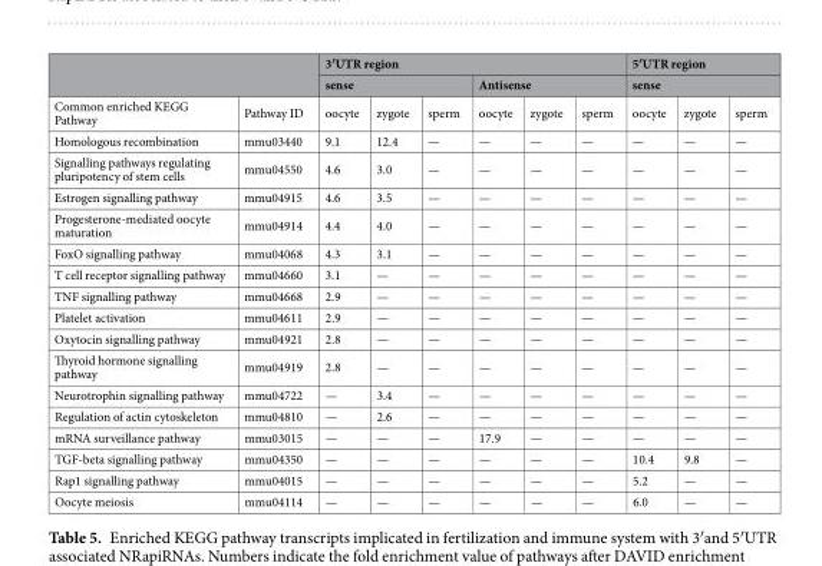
<table><thead><tr><td rowspan="3">Common enriched KEGG Pathway</td><td rowspan="3">Pathway ID</td><td colspan="6">3′UTR region</td><td rowspan="2" colspan="3">5′UTR region sense</td></tr><tr><td colspan="3">sense</td><td colspan="3">Antisense</td></tr><tr><td>oocyte</td><td>zygote</td><td>sperm</td><td>oocyte</td><td>zygote</td><td>sperm</td><td>oocyte</td><td>zygote</td><td>sperm</td></tr></thead><tbody><tr><td>Homologous recombination</td><td>mmu03440</td><td>9.1</td><td>12.4</td><td>—</td><td>—</td><td>—</td><td>—</td><td>—</td><td>—</td><td>—</td></tr><tr><td>Signalling pathways regulating pluripotency of stem cells</td><td>mmu04550</td><td>4.6</td><td>3.0</td><td>—</td><td>—</td><td>—</td><td>—</td><td>—</td><td>—</td><td>—</td></tr><tr><td>Estrogen signalling pathway</td><td>mmu04915</td><td>4.6</td><td>3.5</td><td>—</td><td>—</td><td>—</td><td>—</td><td>—</td><td>—</td><td>—</td></tr><tr><td>Progesterone-mediated oocyte maturation</td><td>mmu04914</td><td>4.4</td><td>4.0</td><td>—</td><td>—</td><td>—</td><td>—</td><td>—</td><td>—</td><td>—</td></tr><tr><td>FoxO signalling pathway</td><td>mmu04068</td><td>4.3</td><td>3.1</td><td>—</td><td>—</td><td>—</td><td>—</td><td>—</td><td>—</td><td>—</td></tr><tr><td>T cell receptor signalling pathway</td><td>mmu04660</td><td>3.1</td><td>—</td><td>—</td><td>—</td><td>—</td><td>—</td><td>—</td><td>—</td><td>—</td></tr><tr><td>TNF signalling pathway</td><td>mmu04668</td><td>2.9</td><td>—</td><td>—</td><td>—</td><td>—</td><td>—</td><td>—</td><td>—</td><td>—</td></tr><tr><td>Platelet activation</td><td>mmu04611</td><td>2.9</td><td>—</td><td>—</td><td>—</td><td>—</td><td>—</td><td>—</td><td>—</td><td>—</td></tr><tr><td>Oxytocin signalling pathway</td><td>mmu04921</td><td>2.8</td><td>—</td><td>—</td><td>—</td><td>—</td><td>—</td><td>—</td><td>—</td><td>—</td></tr><tr><td>Thyroid hormone signalling pathway</td><td>mmu04919</td><td>2.8</td><td>—</td><td>—</td><td>—</td><td>—</td><td>—</td><td>—</td><td>—</td><td>—</td></tr><tr><td>Neurotrophin signalling pathway</td><td>mmu04722</td><td>—</td><td>3.4</td><td>—</td><td>—</td><td>—</td><td>—</td><td>—</td><td>—</td><td>—</td></tr><tr><td>Regulation of actin cytoskeleton</td><td>mmu04810</td><td>—</td><td>2.6</td><td>—</td><td>—</td><td>—</td><td>—</td><td>—</td><td>—</td><td>—</td></tr><tr><td>mRNA surveillance pathway</td><td>mmu03015</td><td>—</td><td>—</td><td>—</td><td>17.9</td><td>—</td><td>—</td><td>—</td><td>—</td><td>—</td></tr><tr><td>TGF-beta signalling pathway</td><td>mmu04350</td><td>—</td><td>—</td><td>—</td><td>—</td><td>—</td><td>—</td><td>10.4</td><td>9.8</td><td>—</td></tr><tr><td>Rap1 signalling pathway</td><td>mmu04015</td><td>—</td><td>—</td><td>—</td><td>—</td><td>—</td><td>—</td><td>5.2</td><td>—</td><td>—</td></tr><tr><td>Oocyte meiosis</td><td>mmu04114</td><td>—</td><td>—</td><td>—</td><td>—</td><td>—</td><td>—</td><td>6.0</td><td>—</td><td>—</td></tr></tbody></table>